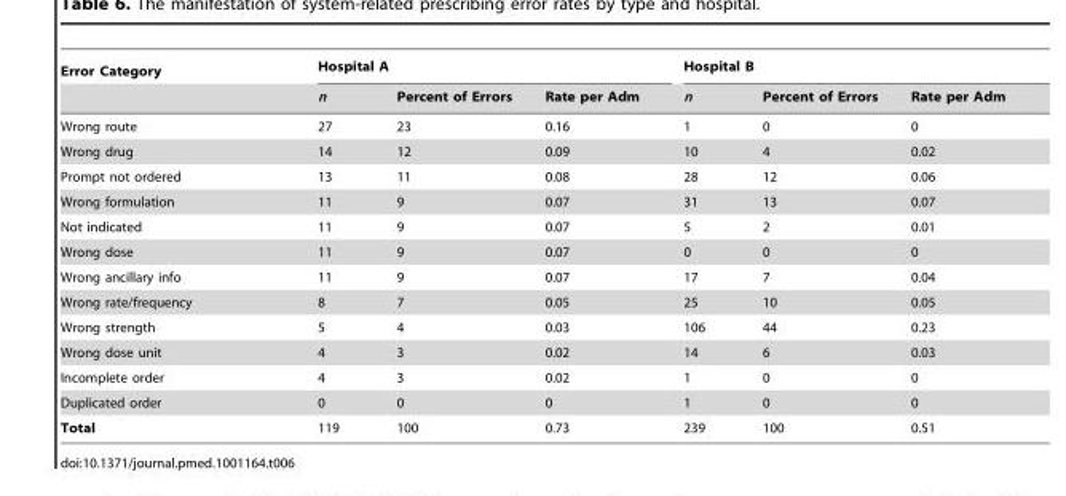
<table><thead><tr><td rowspan="2">Error Category</td><td colspan="3">Hospital A</td><td colspan="3">Hospital B</td></tr><tr><td>n</td><td>Percent of Errors</td><td>Rate per Adm</td><td>n</td><td>Percent of Errors</td><td>Rate per Adm</td></tr></thead><tbody><tr><td>Wrong route</td><td>27</td><td>23</td><td>0.16</td><td>1</td><td>0</td><td>0</td></tr><tr><td>Wrong drug</td><td>14</td><td>12</td><td>0.09</td><td>10</td><td>4</td><td>0.02</td></tr><tr><td>Prompt not ordered</td><td>13</td><td>11</td><td>0.08</td><td>28</td><td>12</td><td>0.06</td></tr><tr><td>Wrong formulation</td><td>11</td><td>9</td><td>0.07</td><td>31</td><td>13</td><td>0.07</td></tr><tr><td>Not indicated</td><td>11</td><td>9</td><td>0.07</td><td>5</td><td>2</td><td>0.01</td></tr><tr><td>Wrong dose</td><td>11</td><td>9</td><td>0.07</td><td>0</td><td>0</td><td>0</td></tr><tr><td>Wrong ancillary info</td><td>11</td><td>9</td><td>0.07</td><td>17</td><td>7</td><td>0.04</td></tr><tr><td>Wrong rate/frequency</td><td>8</td><td>7</td><td>0.05</td><td>25</td><td>10</td><td>0.05</td></tr><tr><td>Wrong strength</td><td>5</td><td>4</td><td>0.03</td><td>106</td><td>44</td><td>0.23</td></tr><tr><td>Wrong dose unit</td><td>4</td><td>3</td><td>0.02</td><td>14</td><td>6</td><td>0.03</td></tr><tr><td>Incomplete order</td><td>4</td><td>3</td><td>0.02</td><td>1</td><td>0</td><td>0</td></tr><tr><td>Duplicated order</td><td>0</td><td>0</td><td>0</td><td>1</td><td>0</td><td>0</td></tr><tr><td>Total</td><td>119</td><td>100</td><td>0.73</td><td>239</td><td>100</td><td>0.51</td></tr></tbody></table>